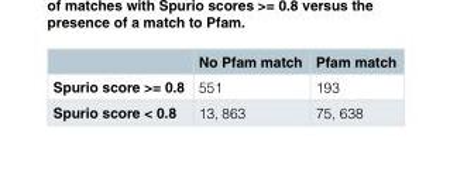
<table><thead><tr><td></td><td>No Pfam match</td><td>Pfam match</td></tr></thead><tbody><tr><td>Spurio score &gt;= 0.8</td><td>551</td><td>193</td></tr><tr><td>Spurio score &lt; 0.8</td><td>13, 863</td><td>75, 638</td></tr></tbody></table>